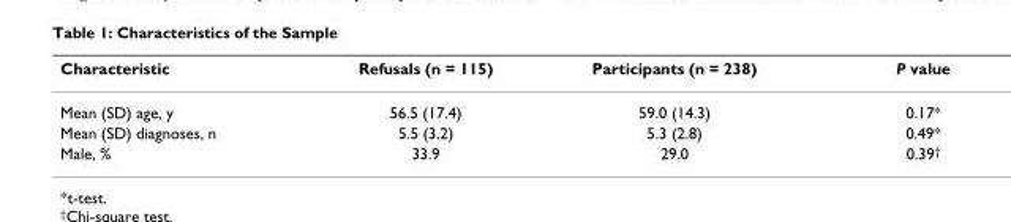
<table><thead><tr><td>Characteristic</td><td>Refusals (n = 115)</td><td>Participants (n = 238)</td><td>P value</td></tr></thead><tbody><tr><td>Mean (SD) age, y</td><td>56.5 (17.4)</td><td>59.0 (14.3)</td><td>0.17*</td></tr><tr><td>Mean (SD) diagnoses, n</td><td>5.5 (3.2)</td><td>5.3 (2.8)</td><td>0.49*</td></tr><tr><td>Male, %</td><td>33.9</td><td>29.0</td><td>0.39<sup>†</sup></td></tr></tbody></table>